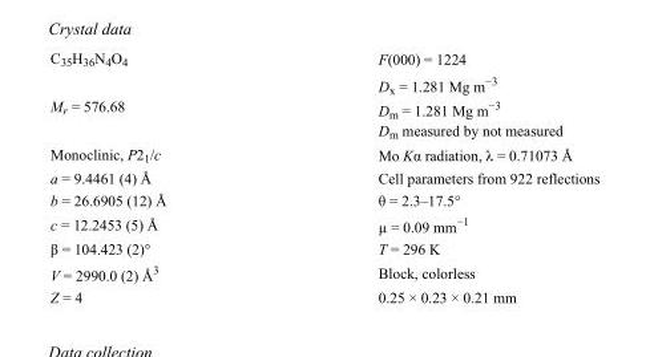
<table><tbody><tr><td>C<sub>35</sub>H<sub>36</sub>N<sub>4</sub>O<sub>4</sub></td><td>F(000) = 1224</td></tr><tr><td>M<sub>r</sub> = 576.68</td><td>D<sub>x</sub> = 1.281 Mg m<sup>−3</sup> D<sub>m</sub> = 1.281 Mg m<sup>−3</sup> D<sub>m</sub> measured by not measured</td></tr><tr><td>Monoclinic, P2<sub>1</sub>/c</td><td>Mo Kα radiation, λ = 0.71073 Å</td></tr><tr><td>a = 9.4461 (4) Å</td><td>Cell parameters from 922 reflections</td></tr><tr><td>b = 26.6905 (12) Å</td><td>θ = 2.3–17.5°</td></tr><tr><td>c = 12.2453 (5) Å</td><td>µ = 0.09 mm<sup>−1</sup></td></tr><tr><td>β = 104.423 (2)°</td><td>T = 296 K</td></tr><tr><td>V = 2990.0 (2) Å<sup>3</sup></td><td>Block, colorless</td></tr><tr><td>Z = 4</td><td>0.25 × 0.23 × 0.21 mm</td></tr></tbody></table>